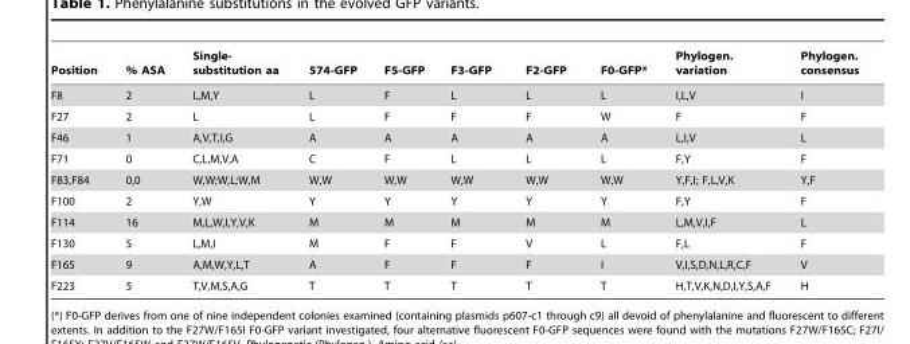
<table><thead><tr><td>Position</td><td>% ASA</td><td>Single- substitution aa</td><td>574-GFP</td><td>F5-GFP</td><td>F3-GFP</td><td>F2-GFP</td><td>F0-GFP*</td><td>Phylogen. variation</td><td>Phylogen. consensus</td></tr></thead><tbody><tr><td>F8</td><td>2</td><td>L,M,Y</td><td>L</td><td>F</td><td>L</td><td>L</td><td>L</td><td>I,L,V</td><td>I</td></tr><tr><td>F27</td><td>2</td><td>L</td><td>L</td><td>F</td><td>F</td><td>F</td><td>W</td><td>F</td><td>F</td></tr><tr><td>F46</td><td>1</td><td>A,V,T,I,G</td><td>A</td><td>A</td><td>A</td><td>A</td><td>A</td><td>L,I,V</td><td>L</td></tr><tr><td>F71</td><td>0</td><td>C,L,M,V,A</td><td>C</td><td>F</td><td>L</td><td>L</td><td>L</td><td>F,Y</td><td>F</td></tr><tr><td>F83,F84</td><td>0,0</td><td>W,W;W,L;W,M</td><td>W,W</td><td>W,W</td><td>W,W</td><td>W,W</td><td>W,W</td><td>Y,F,I; F,L,V,K</td><td>Y,F</td></tr><tr><td>F100</td><td>2</td><td>Y,W</td><td>Y</td><td>Y</td><td>Y</td><td>Y</td><td>Y</td><td>F,Y</td><td>F</td></tr><tr><td>F114</td><td>16</td><td>M,L,W,I,Y,V,K</td><td>M</td><td>M</td><td>M</td><td>M</td><td>M</td><td>L,M,V,I,F</td><td>L</td></tr><tr><td>F130</td><td>5</td><td>L,M,I</td><td>M</td><td>F</td><td>F</td><td>V</td><td>L</td><td>F,L</td><td>F</td></tr><tr><td>F165</td><td>9</td><td>A,M,W,Y,L,T</td><td>A</td><td>F</td><td>F</td><td>F</td><td>I</td><td>V,I,S,D,N,L,R,C,F</td><td>V</td></tr><tr><td>F223</td><td>5</td><td>T,V,M,S,A,G</td><td>T</td><td>T</td><td>T</td><td>T</td><td>T</td><td>H,T,V,K,N,D,I,Y,S,A,F</td><td>H</td></tr></tbody></table>